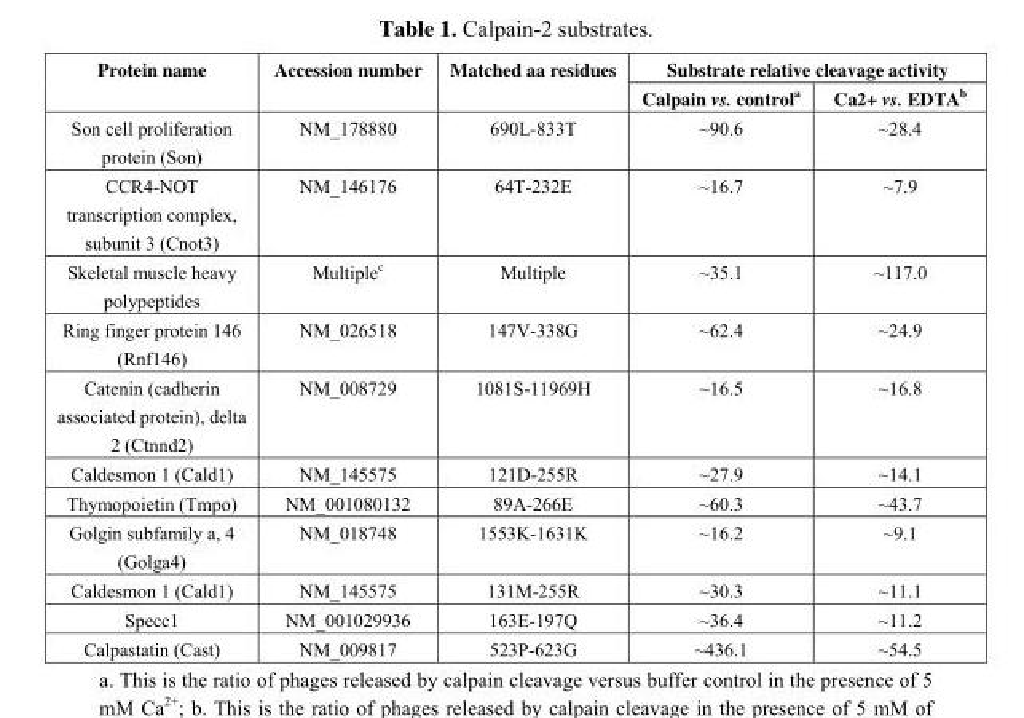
<table><thead><tr><td rowspan="2">Protein name</td><td rowspan="2">Accession number</td><td rowspan="2">Matched aa residues</td><td colspan="2">Substrate relative cleavage activity</td></tr><tr><td>Calpain vs. control<sup>a</sup></td><td>Ca2+ vs. EDTA<sup>b</sup></td></tr></thead><tbody><tr><td>Son cell proliferation protein (Son)</td><td>NM_178880</td><td>690L-833T</td><td>~90.6</td><td>~28.4</td></tr><tr><td>CCR4-NOT transcription complex, subunit 3 (Cnot3)</td><td>NM_146176</td><td>64T-232E</td><td>~16.7</td><td>~7.9</td></tr><tr><td>Skeletal muscle heavy polypeptides</td><td>Multiple<sup>c</sup></td><td>Multiple</td><td>~35.1</td><td>~117.0</td></tr><tr><td>Ring finger protein 146 (Rnf146)</td><td>NM_026518</td><td>147V-338G</td><td>~62.4</td><td>~24.9</td></tr><tr><td>Catenin (cadherin associated protein), delta 2 (Ctnnd2)</td><td>NM_008729</td><td>1081S-11969H</td><td>~16.5</td><td>~16.8</td></tr><tr><td>Caldesmon 1 (Cald1)</td><td>NM_145575</td><td>121D-255R</td><td>~27.9</td><td>~14.1</td></tr><tr><td>Thymopoietin (Tmpo)</td><td>NM_001080132</td><td>89A-266E</td><td>~60.3</td><td>~43.7</td></tr><tr><td>Golgin subfamily a, 4 (Golga4)</td><td>NM_018748</td><td>1553K-1631K</td><td>~16.2</td><td>~9.1</td></tr><tr><td>Caldesmon 1 (Cald1)</td><td>NM_145575</td><td>131M-255R</td><td>~30.3</td><td>~11.1</td></tr><tr><td>Specc1</td><td>NM_001029936</td><td>163E-197Q</td><td>~36.4</td><td>~11.2</td></tr><tr><td>Calpastatin (Cast)</td><td>NM_009817</td><td>523P-623G</td><td>~436.1</td><td>~54.5</td></tr></tbody></table>